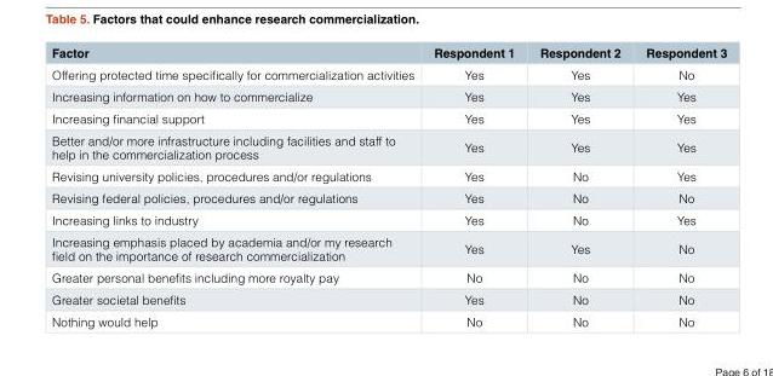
<table><thead><tr><td>Factor</td><td>Respondent 1</td><td>Respondent 2</td><td>Respondent 3</td></tr></thead><tbody><tr><td>Offering protected time specifically for commercialization activities</td><td>Yes</td><td>Yes</td><td>No</td></tr><tr><td>Increasing information on how to commercialize</td><td>Yes</td><td>Yes</td><td>Yes</td></tr><tr><td>Increasing financial support</td><td>Yes</td><td>Yes</td><td>Yes</td></tr><tr><td>Better and/or more infrastructure including facilities and staff to help in the commercialization process</td><td>Yes</td><td>Yes</td><td>Yes</td></tr><tr><td>Revising university policies, procedures and/or regulations</td><td>Yes</td><td>No</td><td>Yes</td></tr><tr><td>Revising federal policies, procedures and/or regulations</td><td>Yes</td><td>No</td><td>No</td></tr><tr><td>Increasing links to industry</td><td>Yes</td><td>No</td><td>Yes</td></tr><tr><td>Increasing emphasis placed by academia and/or my research field on the importance of research commercialization</td><td>Yes</td><td>Yes</td><td>No</td></tr><tr><td>Greater personal benefits including more royalty pay</td><td>No</td><td>No</td><td>No</td></tr><tr><td>Greater societal benefits</td><td>Yes</td><td>No</td><td>No</td></tr><tr><td>Nothing would help</td><td>No</td><td>No</td><td>No</td></tr></tbody></table>